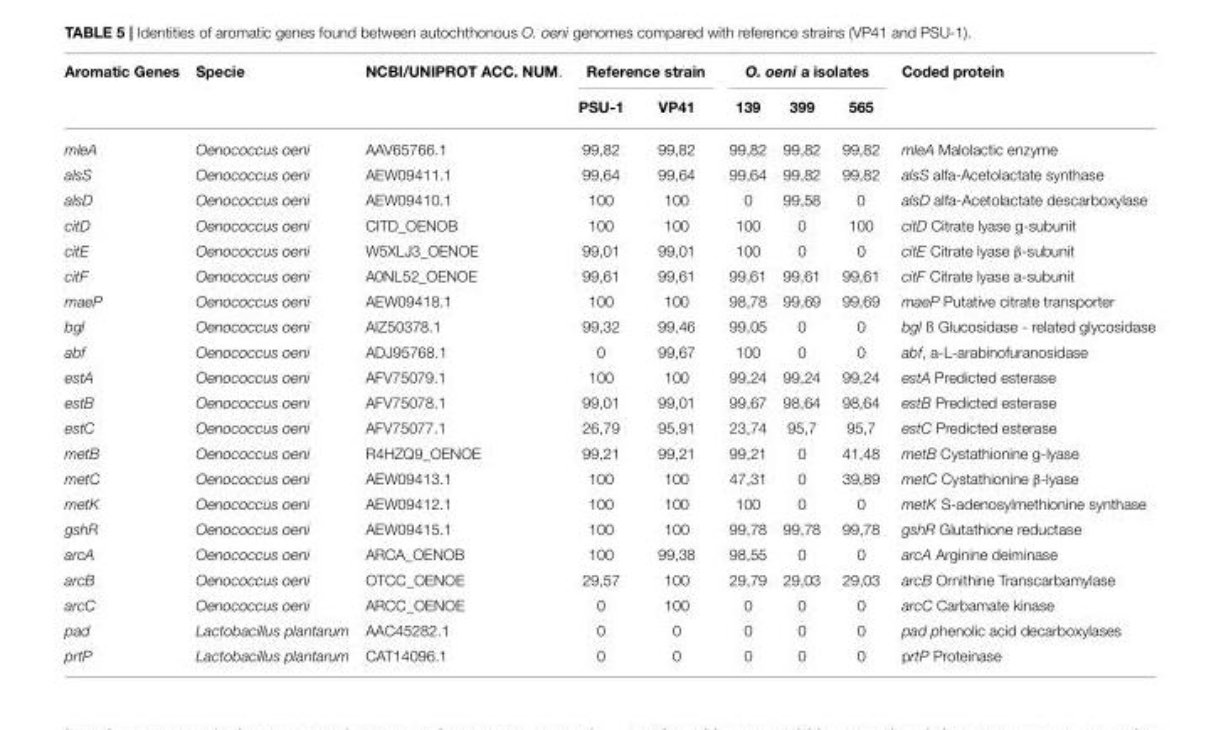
<table><thead><tr><td rowspan="2">Aromatic Genes</td><td rowspan="2">Specie</td><td rowspan="2">NCBI/UNIPROT ACC. NUM.</td><td colspan="2">Reference strain</td><td colspan="3">O. oeni a isolates</td><td rowspan="2">Coded protein</td></tr><tr><td>PSU-1</td><td>VP41</td><td>139</td><td>399</td><td>565</td></tr></thead><tbody><tr><td>mleA</td><td>Oenococcus oeni</td><td>AAV65766.1</td><td>99,82</td><td>99,82</td><td>99,82</td><td>99,82</td><td>99,82</td><td>mleA Malolactic enzyme</td></tr><tr><td>alsS</td><td>Oenococcus oeni</td><td>AEW09411.1</td><td>99,64</td><td>99,64</td><td>99,64</td><td>99,82</td><td>99,82</td><td>alsS alfa-Acetolactate synthase</td></tr><tr><td>alsD</td><td>Oenococcus oeni</td><td>AEW09410.1</td><td>100</td><td>100</td><td>0</td><td>99,58</td><td>0</td><td>alsD alfa-Acetolactate descarboxylase</td></tr><tr><td>citD</td><td>Oenococcus oeni</td><td>CITD_OENOB</td><td>100</td><td>100</td><td>100</td><td>0</td><td>100</td><td>citD Citrate lyase g-subunit</td></tr><tr><td>citE</td><td>Oenococcus oeni</td><td>W5XLJ3_OENOE</td><td>99,01</td><td>99,01</td><td>100</td><td>0</td><td>0</td><td>citE Citrate lyase β-subunit</td></tr><tr><td>citF</td><td>Oenococcus oeni</td><td>A0NL52_OENOE</td><td>99,61</td><td>99,61</td><td>99,61</td><td>99,61</td><td>99,61</td><td>citF Citrate lyase a-subunit</td></tr><tr><td>maeP</td><td>Oenococcus oeni</td><td>AEW09418.1</td><td>100</td><td>100</td><td>98,78</td><td>99,69</td><td>99,69</td><td>maeP Putative citrate transporter</td></tr><tr><td>bgl</td><td>Oenococcus oeni</td><td>AIZ50378.1</td><td>99,32</td><td>99,46</td><td>99,05</td><td>0</td><td>0</td><td>bgl ß Glucosidase - related glycosidase</td></tr><tr><td>abf</td><td>Oenococcus oeni</td><td>ADJ95768.1</td><td>0</td><td>99,67</td><td>100</td><td>0</td><td>0</td><td>abf, a-L-arabinofuranosidase</td></tr><tr><td>estA</td><td>Oenococcus oeni</td><td>AFV75079.1</td><td>100</td><td>100</td><td>99,24</td><td>99,24</td><td>99,24</td><td>estA Predicted esterase</td></tr><tr><td>estB</td><td>Oenococcus oeni</td><td>AFV75078.1</td><td>99,01</td><td>99,01</td><td>99,67</td><td>98,64</td><td>98,64</td><td>estB Predicted esterase</td></tr><tr><td>estC</td><td>Oenococcus oeni</td><td>AFV75077.1</td><td>26,79</td><td>95,91</td><td>23,74</td><td>95,7</td><td>95,7</td><td>estC Predicted esterase</td></tr><tr><td>metB</td><td>Oenococcus oeni</td><td>R4HZQ9_OENOE</td><td>99,21</td><td>99,21</td><td>99,21</td><td>0</td><td>41,48</td><td>metB Cystathionine g-lyase</td></tr><tr><td>metC</td><td>Oenococcus oeni</td><td>AEW09413.1</td><td>100</td><td>100</td><td>47,31</td><td>0</td><td>39,89</td><td>metC Cystathionine β-lyase</td></tr><tr><td>metK</td><td>Oenococcus oeni</td><td>AEW09412.1</td><td>100</td><td>100</td><td>100</td><td>0</td><td>0</td><td>metK S-adenosylmethionine synthase</td></tr><tr><td>gshR</td><td>Oenococcus oeni</td><td>AEW09415.1</td><td>100</td><td>100</td><td>99,78</td><td>99,78</td><td>99,78</td><td>gshR Glutathione reductase</td></tr><tr><td>arcA</td><td>Oenococcus oeni</td><td>ARCA_OENOB</td><td>100</td><td>99,38</td><td>98,55</td><td>0</td><td>0</td><td>arcA Arginine deiminase</td></tr><tr><td>arcB</td><td>Oenococcus oeni</td><td>OTCC_OENOE</td><td>29,57</td><td>100</td><td>29,79</td><td>29,03</td><td>29,03</td><td>arcB Ornithine Transcarbamylase</td></tr><tr><td>arcC</td><td>Oenococcus oeni</td><td>ARCC_OENOE</td><td>0</td><td>100</td><td>0</td><td>0</td><td>0</td><td>arcC Carbamate kinase</td></tr><tr><td>pad</td><td>Lactobacillus plantarum</td><td>AAC45282.1</td><td>0</td><td>0</td><td>0</td><td>0</td><td>0</td><td>pad phenolic acid decarboxylases</td></tr><tr><td>prtP</td><td>Lactobacillus plantarum</td><td>CAT14096.1</td><td>0</td><td>0</td><td>0</td><td>0</td><td>0</td><td>prtP Proteinase</td></tr></tbody></table>